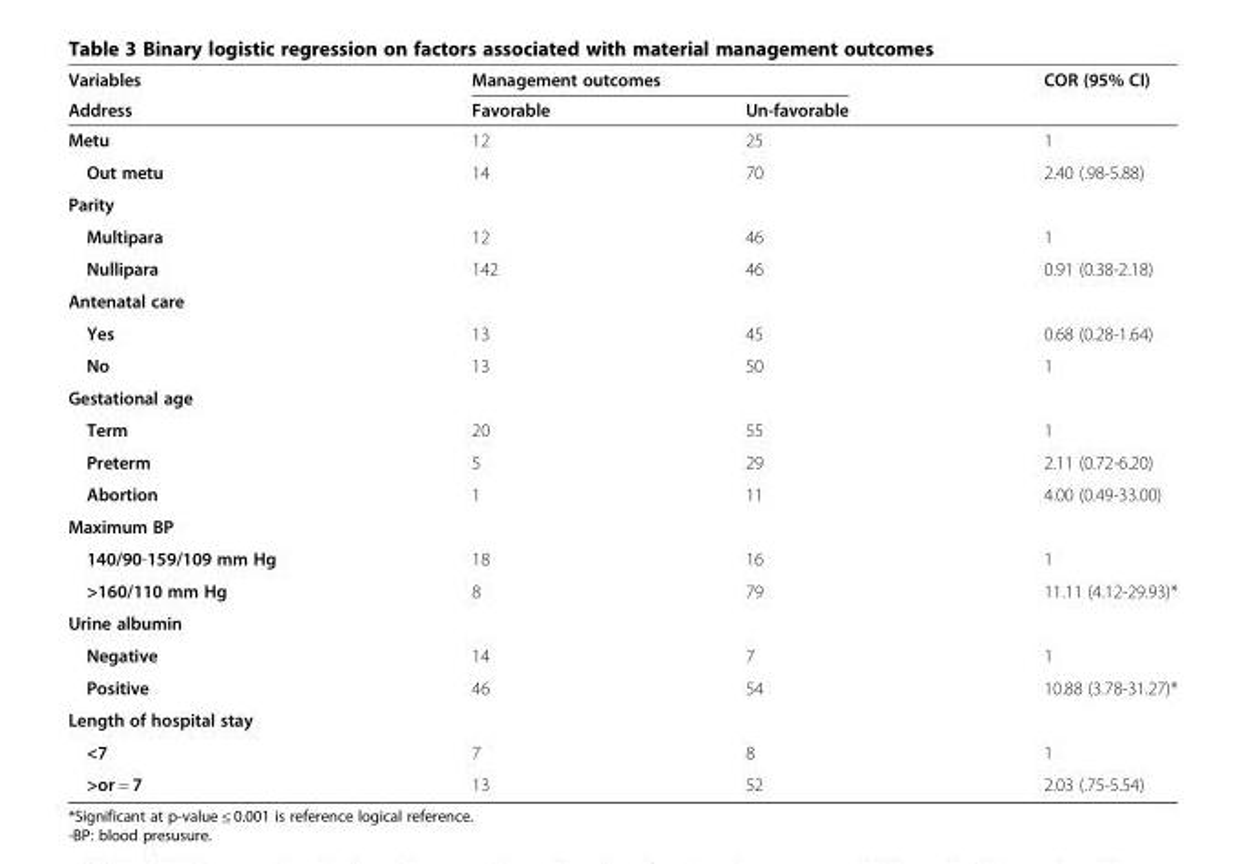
<table><thead><tr><td rowspan="2">Variables Address</td><td colspan="2">Management outcomes</td><td rowspan="2">COR (95% CI)</td></tr><tr><td>Favorable</td><td>Un-favorable</td></tr></thead><tbody><tr><td>Metu</td><td>12</td><td>25</td><td>1</td></tr><tr><td>Out metu</td><td>14</td><td>70</td><td>2.40 (.98-5.88)</td></tr><tr><td colspan="4">Parity</td></tr><tr><td>Multipara</td><td>12</td><td>46</td><td>1</td></tr><tr><td>Nullipara</td><td>142</td><td>46</td><td>0.91 (0.38-2.18)</td></tr><tr><td colspan="4">Antenatal care</td></tr><tr><td>Yes</td><td>13</td><td>45</td><td>0.68 (0.28-1.64)</td></tr><tr><td>No</td><td>13</td><td>50</td><td>1</td></tr><tr><td colspan="4">Gestational age</td></tr><tr><td>Term</td><td>20</td><td>55</td><td>1</td></tr><tr><td>Preterm</td><td>5</td><td>29</td><td>2.11 (0.72-6.20)</td></tr><tr><td>Abortion</td><td>1</td><td>11</td><td>4.00 (0.49-33.00)</td></tr><tr><td colspan="4">Maximum BP</td></tr><tr><td>140/90-159/109 mm Hg</td><td>18</td><td>16</td><td>1</td></tr><tr><td>&gt;160/110 mm Hg</td><td>8</td><td>79</td><td>11.11 (4.12-29.93)*</td></tr><tr><td colspan="4">Urine albumin</td></tr><tr><td>Negative</td><td>14</td><td>7</td><td>1</td></tr><tr><td>Positive</td><td>46</td><td>54</td><td>10.88 (3.78-31.27)*</td></tr><tr><td colspan="4">Length of hospital stay</td></tr><tr><td>&lt;7</td><td>7</td><td>8</td><td>1</td></tr><tr><td>&gt;or = 7</td><td>13</td><td>52</td><td>2.03 (.75-5.54)</td></tr></tbody></table>